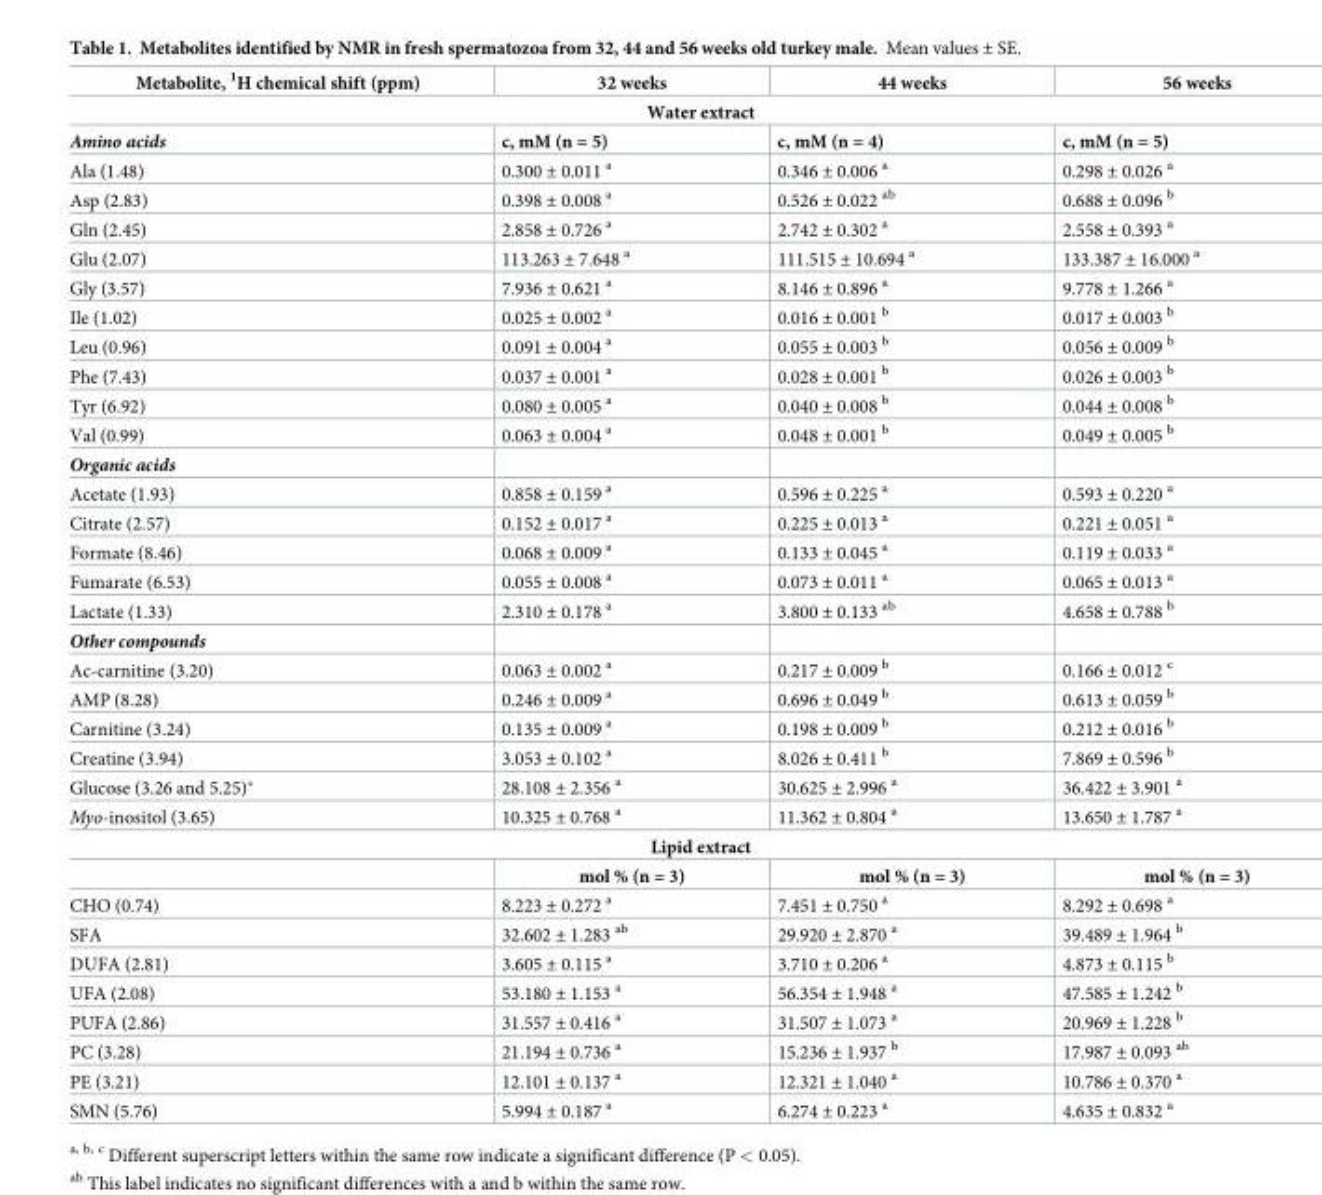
<table><thead><tr><td>Metabolite, <sup>1</sup>H chemical shift (ppm)</td><td>32 weeks</td><td>44 weeks</td><td>56 weeks</td></tr></thead><tbody><tr><td colspan="4">Water extract</td></tr><tr><td>Amino acids</td><td>c, mM (n = 5)</td><td>c, mM (n = 4)</td><td>c, mM (n = 5)</td></tr><tr><td>Ala (1.48)</td><td>0.300 ± 0.011 <sup>a</sup></td><td>0.346 ± 0.006 <sup>a</sup></td><td>0.298 ± 0.026 <sup>a</sup></td></tr><tr><td>Asp (2.83)</td><td>0.398 ± 0.008 <sup>a</sup></td><td>0.526 ± 0.022 <sup>ab</sup></td><td>0.688 ± 0.096 <sup>b</sup></td></tr><tr><td>Gln (2.45)</td><td>2.858 ± 0.726 <sup>a</sup></td><td>2.742 ± 0.302 <sup>a</sup></td><td>2.558 ± 0.393 <sup>a</sup></td></tr><tr><td>Glu (2.07)</td><td>113.263 ± 7.648 <sup>a</sup></td><td>111.515 ± 10.694 <sup>a</sup></td><td>133.387 ± 16.000 <sup>a</sup></td></tr><tr><td>Gly (3.57)</td><td>7.936 ± 0.621 <sup>a</sup></td><td>8.146 ± 0.896 <sup>a</sup></td><td>9.778 ± 1.266 <sup>a</sup></td></tr><tr><td>Ile (1.02)</td><td>0.025 ± 0.002 <sup>a</sup></td><td>0.016 ± 0.001 <sup>b</sup></td><td>0.017 ± 0.003 <sup>b</sup></td></tr><tr><td>Leu (0.96)</td><td>0.091 ± 0.004 <sup>a</sup></td><td>0.055 ± 0.003 <sup>b</sup></td><td>0.056 ± 0.009 <sup>b</sup></td></tr><tr><td>Phe (7.43)</td><td>0.037 ± 0.001 <sup>a</sup></td><td>0.028 ± 0.001 <sup>b</sup></td><td>0.026 ± 0.003 <sup>b</sup></td></tr><tr><td>Tyr (6.92)</td><td>0.080 ± 0.005 <sup>a</sup></td><td>0.040 ± 0.008 <sup>b</sup></td><td>0.044 ± 0.008 <sup>b</sup></td></tr><tr><td>Val (0.99)</td><td>0.063 ± 0.004 <sup>a</sup></td><td>0.048 ± 0.001 <sup>b</sup></td><td>0.049 ± 0.005 <sup>b</sup></td></tr><tr><td colspan="4">Organic acids</td></tr><tr><td>Acetate (1.93)</td><td>0.858 ± 0.159 <sup>a</sup></td><td>0.596 ± 0.225 <sup>a</sup></td><td>0.593 ± 0.220 <sup>a</sup></td></tr><tr><td>Citrate (2.57)</td><td>0.152 ± 0.017 <sup>a</sup></td><td>0.225 ± 0.013 <sup>a</sup></td><td>0.221 ± 0.051 <sup>a</sup></td></tr><tr><td>Formate (8.46)</td><td>0.068 ± 0.009 <sup>a</sup></td><td>0.133 ± 0.045 <sup>a</sup></td><td>0.119 ± 0.033 <sup>a</sup></td></tr><tr><td>Fumarate (6.53)</td><td>0.055 ± 0.008 <sup>a</sup></td><td>0.073 ± 0.011 <sup>a</sup></td><td>0.065 ± 0.013 <sup>a</sup></td></tr><tr><td>Lactate (1.33)</td><td>2.310 ± 0.178 <sup>a</sup></td><td>3.800 ± 0.133 <sup>ab</sup></td><td>4.658 ± 0.788 <sup>b</sup></td></tr><tr><td colspan="4">Other compounds</td></tr><tr><td>Ac-carnitine (3.20)</td><td>0.063 ± 0.002 <sup>a</sup></td><td>0.217 ± 0.009 <sup>b</sup></td><td>0.166 ± 0.012 <sup>c</sup></td></tr><tr><td>AMP (8.28)</td><td>0.246 ± 0.009 <sup>a</sup></td><td>0.696 ± 0.049 <sup>b</sup></td><td>0.613 ± 0.059 <sup>b</sup></td></tr><tr><td>Carnitine (3.24)</td><td>0.135 ± 0.009 <sup>a</sup></td><td>0.198 ± 0.009 <sup>b</sup></td><td>0.212 ± 0.016 <sup>b</sup></td></tr><tr><td>Creatine (3.94)</td><td>3.053 ± 0.102 <sup>a</sup></td><td>8.026 ± 0.411 <sup>b</sup></td><td>7.869 ± 0.596 <sup>b</sup></td></tr><tr><td>Glucose (3.26 and 5.25)*</td><td>28.108 ± 2.356 <sup>a</sup></td><td>30.625 ± 2.996 <sup>a</sup></td><td>36.422 ± 3.901 <sup>a</sup></td></tr><tr><td>Myo-inositol (3.65)</td><td>10.325 ± 0.768 <sup>a</sup></td><td>11.362 ± 0.804 <sup>a</sup></td><td>13.650 ± 1.787 <sup>a</sup></td></tr><tr><td colspan="4">Lipid extract</td></tr><tr><td></td><td>mol % (n = 3)</td><td>mol % (n = 3)</td><td>mol % (n = 3)</td></tr><tr><td>CHO (0.74)</td><td>8.223 ± 0.272 <sup>a</sup></td><td>7.451 ± 0.750 <sup>a</sup></td><td>8.292 ± 0.698 <sup>a</sup></td></tr><tr><td>SFA</td><td>32.602 ± 1.283 <sup>ab</sup></td><td>29.920 ± 2.870 <sup>a</sup></td><td>39.489 ± 1.964 <sup>b</sup></td></tr><tr><td>DUFA (2.81)</td><td>3.605 ± 0.115 <sup>a</sup></td><td>3.710 ± 0.206 <sup>a</sup></td><td>4.873 ± 0.115 <sup>b</sup></td></tr><tr><td>UFA (2.08)</td><td>53.180 ± 1.153 <sup>a</sup></td><td>56.354 ± 1.948 <sup>a</sup></td><td>47.585 ± 1.242 <sup>b</sup></td></tr><tr><td>PUFA (2.86)</td><td>31.557 ± 0.416 <sup>a</sup></td><td>31.507 ± 1.073 <sup>a</sup></td><td>20.969 ± 1.228 <sup>b</sup></td></tr><tr><td>PC (3.28)</td><td>21.194 ± 0.736 <sup>a</sup></td><td>15.236 ± 1.937 <sup>b</sup></td><td>17.987 ± 0.093 <sup>ab</sup></td></tr><tr><td>PE (3.21)</td><td>12.101 ± 0.137 <sup>a</sup></td><td>12.321 ± 1.040 <sup>a</sup></td><td>10.786 ± 0.370 <sup>a</sup></td></tr><tr><td>SMN (5.76)</td><td>5.994 ± 0.187 <sup>a</sup></td><td>6.274 ± 0.223 <sup>a</sup></td><td>4.635 ± 0.832 <sup>a</sup></td></tr></tbody></table>